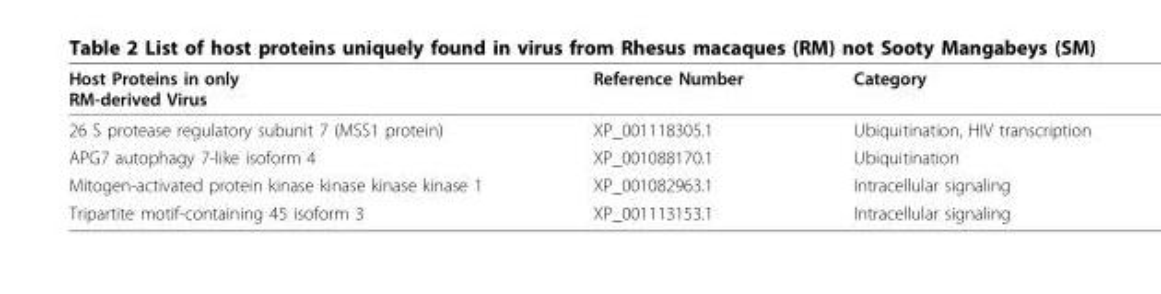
<table><thead><tr><td>Host Proteins in only RM-derived Virus</td><td>Reference Number</td><td>Category</td></tr></thead><tbody><tr><td>26 S protease regulatory subunit 7 (MSS1 protein)</td><td>XP_001118305.1</td><td>Ubiquitination, HIV transcription</td></tr><tr><td>APG7 autophagy 7-like isoform 4</td><td>XP_001088170.1</td><td>Ubiquitination</td></tr><tr><td>Mitogen-activated protein kinase kinase kinase kinase 1</td><td>XP_001082963.1</td><td>Intracellular signaling</td></tr><tr><td>Tripartite motif-containing 45 isoform 3</td><td>XP_001113153.1</td><td>Intracellular signaling</td></tr></tbody></table>